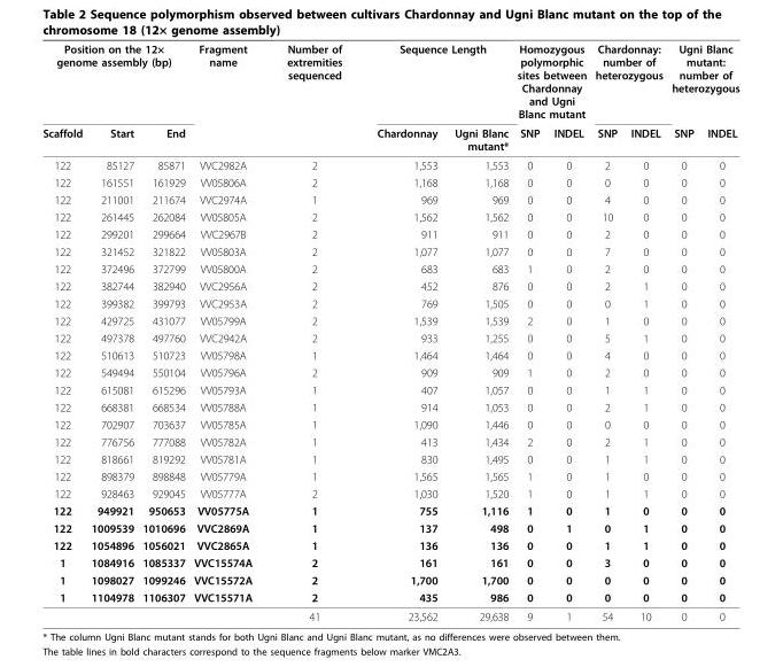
<table><thead><tr><td colspan="3">Position on the 12× genome assembly (bp)</td><td rowspan="2">Fragment name</td><td rowspan="2">Number of extremities sequenced</td><td colspan="2">Sequence Length</td><td colspan="2">Homozygous polymorphic sites between Chardonnay and Ugni Blanc mutant</td><td colspan="2">Chardonnay: number of heterozygous</td><td colspan="2">Ugni Blanc mutant: number of heterozygous</td></tr><tr><td>Scaffold</td><td>Start</td><td>End</td><td>Chardonnay</td><td>Ugni Blanc mutant*</td><td>SNP</td><td>INDEL</td><td>SNP</td><td>INDEL</td><td>SNP</td><td>INDEL</td></tr></thead><tbody><tr><td>122</td><td>85127</td><td>85871</td><td>VVC2982A</td><td>2</td><td>1,553</td><td>1,553</td><td>0</td><td>0</td><td>2</td><td>0</td><td>0</td><td>0</td></tr><tr><td>122</td><td>161551</td><td>161929</td><td>VV05806A</td><td>2</td><td>1,168</td><td>1,168</td><td>0</td><td>0</td><td>0</td><td>0</td><td>0</td><td>0</td></tr><tr><td>122</td><td>211001</td><td>211674</td><td>VVC2974A</td><td>1</td><td>969</td><td>969</td><td>0</td><td>0</td><td>4</td><td>0</td><td>0</td><td>0</td></tr><tr><td>122</td><td>261445</td><td>262084</td><td>VV05805A</td><td>2</td><td>1,562</td><td>1,562</td><td>0</td><td>0</td><td>10</td><td>0</td><td>0</td><td>0</td></tr><tr><td>122</td><td>299201</td><td>299664</td><td>VVC2967B</td><td>2</td><td>911</td><td>911</td><td>0</td><td>0</td><td>2</td><td>0</td><td>0</td><td>0</td></tr><tr><td>122</td><td>321452</td><td>321822</td><td>VV05803A</td><td>2</td><td>1,077</td><td>1,077</td><td>0</td><td>0</td><td>7</td><td>0</td><td>0</td><td>0</td></tr><tr><td>122</td><td>372496</td><td>372799</td><td>VV05800A</td><td>2</td><td>683</td><td>683</td><td>1</td><td>0</td><td>2</td><td>0</td><td>0</td><td>0</td></tr><tr><td>122</td><td>382744</td><td>382940</td><td>VVC2956A</td><td>2</td><td>452</td><td>876</td><td>0</td><td>0</td><td>2</td><td>1</td><td>0</td><td>0</td></tr><tr><td>122</td><td>399382</td><td>399793</td><td>VVC2953A</td><td>2</td><td>769</td><td>1,505</td><td>0</td><td>0</td><td>0</td><td>1</td><td>0</td><td>0</td></tr><tr><td>122</td><td>429725</td><td>431077</td><td>VV05799A</td><td>2</td><td>1,539</td><td>1,539</td><td>2</td><td>0</td><td>1</td><td>0</td><td>0</td><td>0</td></tr><tr><td>122</td><td>497378</td><td>497760</td><td>VVC2942A</td><td>2</td><td>933</td><td>1,255</td><td>0</td><td>0</td><td>5</td><td>1</td><td>0</td><td>0</td></tr><tr><td>122</td><td>510613</td><td>510723</td><td>VV05798A</td><td>1</td><td>1,464</td><td>1,464</td><td>0</td><td>0</td><td>4</td><td>0</td><td>0</td><td>0</td></tr><tr><td>122</td><td>549494</td><td>550104</td><td>VV05796A</td><td>2</td><td>909</td><td>909</td><td>1</td><td>0</td><td>2</td><td>0</td><td>0</td><td>0</td></tr><tr><td>122</td><td>615081</td><td>615296</td><td>VV05793A</td><td>1</td><td>407</td><td>1,057</td><td>0</td><td>0</td><td>1</td><td>1</td><td>0</td><td>0</td></tr><tr><td>122</td><td>668381</td><td>668534</td><td>VV05788A</td><td>1</td><td>914</td><td>1,053</td><td>0</td><td>0</td><td>2</td><td>1</td><td>0</td><td>0</td></tr><tr><td>122</td><td>702907</td><td>703637</td><td>VV05785A</td><td>1</td><td>1,090</td><td>1,446</td><td>0</td><td>0</td><td>0</td><td>0</td><td>0</td><td>0</td></tr><tr><td>122</td><td>776756</td><td>777088</td><td>VV05782A</td><td>1</td><td>413</td><td>1,434</td><td>2</td><td>0</td><td>2</td><td>1</td><td>0</td><td>0</td></tr><tr><td>122</td><td>818661</td><td>819292</td><td>VV05781A</td><td>1</td><td>830</td><td>1,495</td><td>0</td><td>0</td><td>1</td><td>1</td><td>0</td><td>0</td></tr><tr><td>122</td><td>898379</td><td>898848</td><td>VV05779A</td><td>1</td><td>1,565</td><td>1,565</td><td>1</td><td>0</td><td>1</td><td>0</td><td>0</td><td>0</td></tr><tr><td>122</td><td>928463</td><td>929045</td><td>VV05777A</td><td>2</td><td>1,030</td><td>1,520</td><td>1</td><td>0</td><td>1</td><td>1</td><td>0</td><td>0</td></tr><tr><td>122</td><td>949921</td><td>950653</td><td>VV05775A</td><td>1</td><td>755</td><td>1,116</td><td>1</td><td>0</td><td>1</td><td>0</td><td>0</td><td>0</td></tr><tr><td>122</td><td>1009539</td><td>1010696</td><td>VVC2869A</td><td>1</td><td>137</td><td>498</td><td>0</td><td>1</td><td>0</td><td>1</td><td>0</td><td>0</td></tr><tr><td>122</td><td>1054896</td><td>1056021</td><td>VVC2865A</td><td>1</td><td>136</td><td>136</td><td>0</td><td>0</td><td>1</td><td>1</td><td>0</td><td>0</td></tr><tr><td>1</td><td>1084916</td><td>1085337</td><td>VVC15574A</td><td>2</td><td>161</td><td>161</td><td>0</td><td>0</td><td>3</td><td>0</td><td>0</td><td>0</td></tr><tr><td>1</td><td>1098027</td><td>1099246</td><td>VVC15572A</td><td>2</td><td>1,700</td><td>1,700</td><td>0</td><td>0</td><td>0</td><td>0</td><td>0</td><td>0</td></tr><tr><td rowspan="2">1</td><td>1104978</td><td>1106307</td><td>VVC15571A</td><td>2</td><td>435</td><td>986</td><td>0</td><td>0</td><td>0</td><td>0</td><td>0</td><td>0</td></tr><tr><td></td><td></td><td></td><td>41</td><td>23,562</td><td>29,638</td><td>9</td><td>1</td><td>54</td><td>10</td><td>0</td><td>0</td></tr></tbody></table>